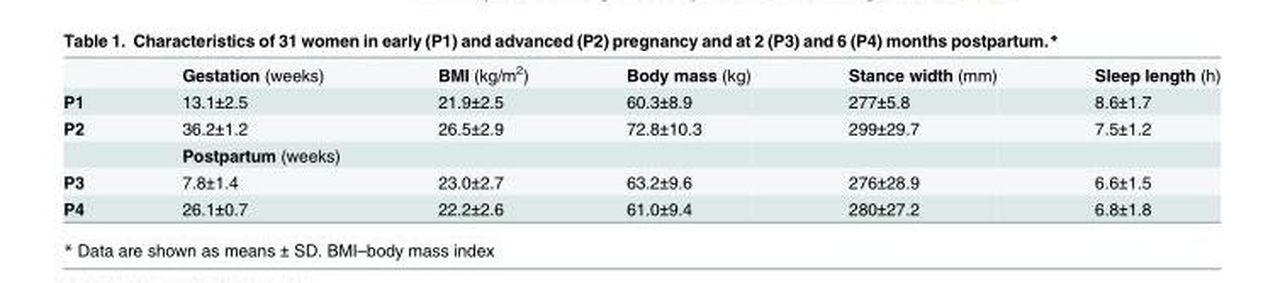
<table><thead><tr><td></td><td>Gestation (weeks)</td><td>BMI (kg/m<sup>2</sup>)</td><td>Body mass (kg)</td><td>Stance width (mm)</td><td>Sleep length (h)</td></tr></thead><tbody><tr><td>P1</td><td>13.1±2.5</td><td>21.9±2.5</td><td>60.3±8.9</td><td>277±5.8</td><td>8.6±1.7</td></tr><tr><td rowspan="2">P2</td><td>36.2±1.2</td><td>26.5±2.9</td><td>72.8±10.3</td><td>299±29.7</td><td>7.5±1.2</td></tr><tr><td>Postpartum (weeks)</td><td></td><td></td><td></td><td></td></tr><tr><td>P3</td><td>7.8±1.4</td><td>23.0±2.7</td><td>63.2±9.6</td><td>276±28.9</td><td>6.6±1.5</td></tr><tr><td>P4</td><td>26.1±0.7</td><td>22.2±2.6</td><td>61.0±9.4</td><td>280±27.2</td><td>6.8±1.8</td></tr></tbody></table>